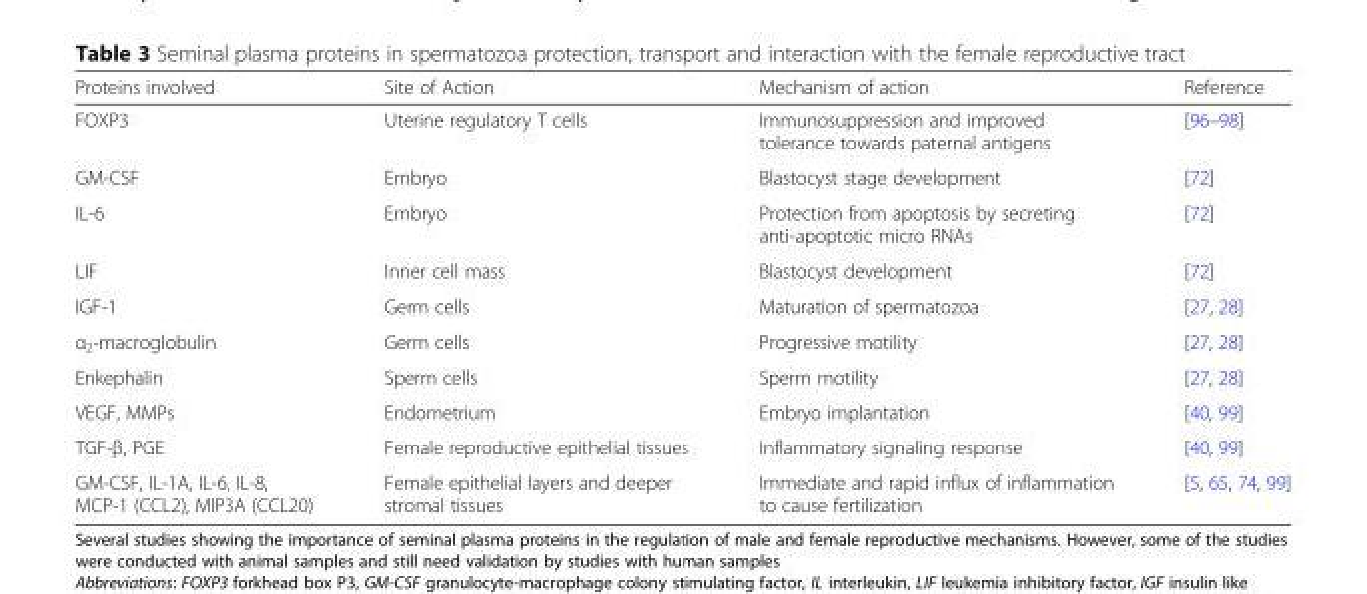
<table><thead><tr><td>Proteins involved</td><td>Site of Action</td><td>Mechanism of action</td><td>Reference</td></tr></thead><tbody><tr><td>FOXP3</td><td>Uterine regulatory T cells</td><td>Immunosuppression and improved tolerance towards paternal antigens</td><td>[96–98]</td></tr><tr><td>GM-CSF</td><td>Embryo</td><td>Blastocyst stage development</td><td>[72]</td></tr><tr><td>IL-6</td><td>Embryo</td><td>Protection from apoptosis by secreting anti-apoptotic micro RNAs</td><td>[72]</td></tr><tr><td>LIF</td><td>Inner cell mass</td><td>Blastocyst development</td><td>[72]</td></tr><tr><td>IGF-1</td><td>Germ cells</td><td>Maturation of spermatozoa</td><td>[27, 28]</td></tr><tr><td>α<sub>2</sub>-macroglobulin</td><td>Germ cells</td><td>Progressive motility</td><td>[27, 28]</td></tr><tr><td>Enkephalin</td><td>Sperm cells</td><td>Sperm motility</td><td>[27, 28]</td></tr><tr><td>VEGF, MMPs</td><td>Endometrium</td><td>Embryo implantation</td><td>[40, 99]</td></tr><tr><td>TGF-β, PGE</td><td>Female reproductive epithelial tissues</td><td>Inflammatory signaling response</td><td>[40, 99]</td></tr><tr><td>GM-CSF, IL-1A, IL-6, IL-8, MCP-1 (CCL2), MIP3A (CCL20)</td><td>Female epithelial layers and deeper stromal tissues</td><td>Immediate and rapid influx of inflammation to cause fertilization</td><td>[5, 65, 74, 99]</td></tr></tbody></table>